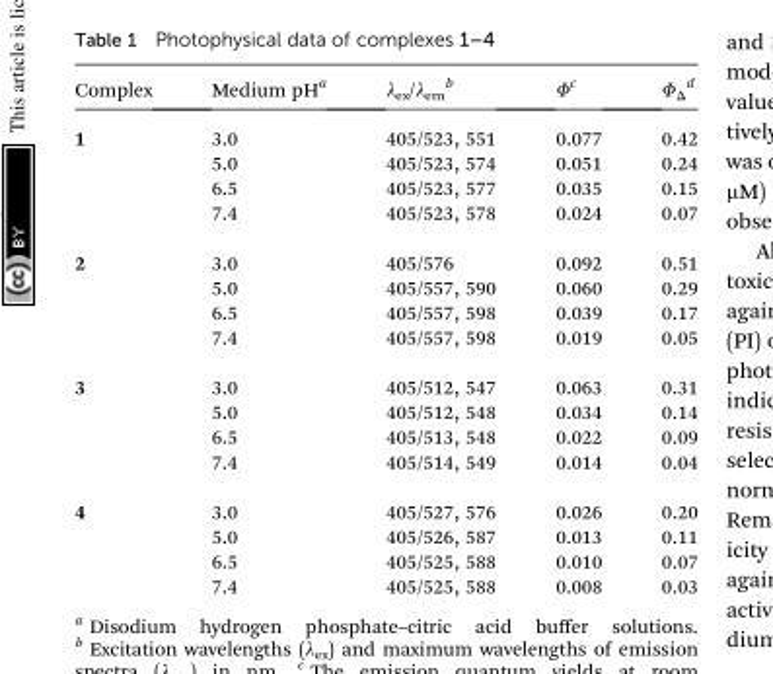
<table><thead><tr><td>Complex</td><td>Medium pH<sup>a</sup></td><td>λ<sub>ex</sub>/λ<sub>em</sub> <sup>b</sup></td><td>Φ<sup>c</sup></td><td>Φ<sub>Δ</sub> <sup>d</sup></td></tr></thead><tbody><tr><td rowspan="4">1</td><td>3.0</td><td>405/523, 551</td><td>0.077</td><td>0.42</td></tr><tr><td>5.0</td><td>405/523, 574</td><td>0.051</td><td>0.24</td></tr><tr><td>6.5</td><td>405/523, 577</td><td>0.035</td><td>0.15</td></tr><tr><td>7.4</td><td>405/523, 578</td><td>0.024</td><td>0.07</td></tr><tr><td rowspan="4">2</td><td>3.0</td><td>405/576</td><td>0.092</td><td>0.51</td></tr><tr><td>5.0</td><td>405/557, 590</td><td>0.060</td><td>0.29</td></tr><tr><td>6.5</td><td>405/557, 598</td><td>0.039</td><td>0.17</td></tr><tr><td>7.4</td><td>405/557, 598</td><td>0.019</td><td>0.05</td></tr><tr><td rowspan="4">3</td><td>3.0</td><td>405/512, 547</td><td>0.063</td><td>0.31</td></tr><tr><td>5.0</td><td>405/512, 548</td><td>0.034</td><td>0.14</td></tr><tr><td>6.5</td><td>405/513, 548</td><td>0.022</td><td>0.09</td></tr><tr><td>7.4</td><td>405/514, 549</td><td>0.014</td><td>0.04</td></tr><tr><td rowspan="4">4</td><td>3.0</td><td>405/527, 576</td><td>0.026</td><td>0.20</td></tr><tr><td>5.0</td><td>405/526, 587</td><td>0.013</td><td>0.11</td></tr><tr><td>6.5</td><td>405/525, 588</td><td>0.010</td><td>0.07</td></tr><tr><td>7.4</td><td>405/525, 588</td><td>0.008</td><td>0.03</td></tr></tbody></table>